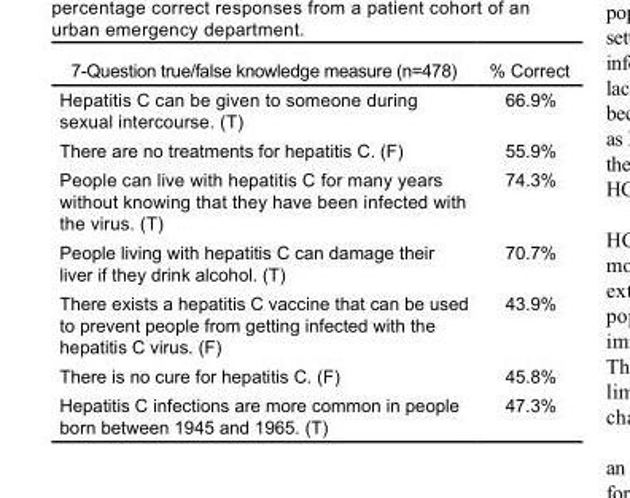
<table><thead><tr><td>7-Question true/false knowledge measure (n=478)</td><td>% Correct</td></tr></thead><tbody><tr><td>Hepatitis C can be given to someone during sexual intercourse. (T)</td><td>66.9%</td></tr><tr><td>There are no treatments for hepatitis C. (F)</td><td>55.9%</td></tr><tr><td>People can live with hepatitis C for many years without knowing that they have been infected with the virus. (T)</td><td>74.3%</td></tr><tr><td>People living with hepatitis C can damage their liver if they drink alcohol. (T)</td><td>70.7%</td></tr><tr><td>There exists a hepatitis C vaccine that can be used to prevent people from getting infected with the hepatitis C virus. (F)</td><td>43.9%</td></tr><tr><td>There is no cure for hepatitis C. (F)</td><td>45.8%</td></tr><tr><td>Hepatitis C infections are more common in people born between 1945 and 1965. (T)</td><td>47.3%</td></tr></tbody></table>